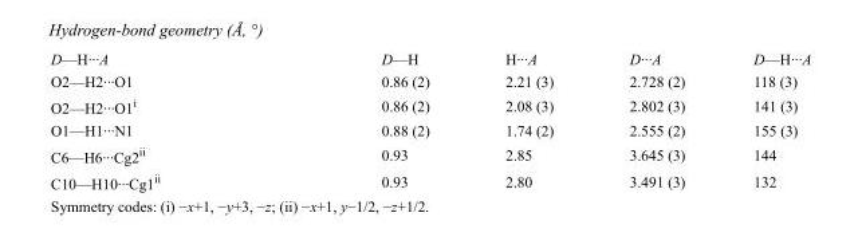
<table><tbody><tr><td>D—H···A</td><td>D—H</td><td>H···A</td><td>D···A</td><td>D—H···A</td></tr><tr><td>O2—H2···O1</td><td>0.86 (2)</td><td>2.21 (3)</td><td>2.728 (2)</td><td>118 (3)</td></tr><tr><td>O2—H2···O1<sup>i</sup></td><td>0.86 (2)</td><td>2.08 (3)</td><td>2.802 (3)</td><td>141 (3)</td></tr><tr><td>O1—H1···N1</td><td>0.88 (2)</td><td>1.74 (2)</td><td>2.555 (2)</td><td>155 (3)</td></tr><tr><td>C6—H6···Cg2<sup>ii</sup></td><td>0.93</td><td>2.85</td><td>3.645 (3)</td><td>144</td></tr><tr><td>C10—H10···Cg1<sup>ii</sup></td><td>0.93</td><td>2.80</td><td>3.491 (3)</td><td>132</td></tr></tbody></table>